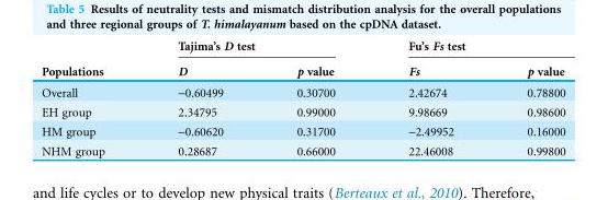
<table><thead><tr><td rowspan="2">Populations</td><td colspan="2">Tajima’s D test</td><td colspan="2">Fu’s Fs test</td></tr><tr><td>D</td><td>p value</td><td>Fs</td><td>p value</td></tr></thead><tbody><tr><td>Overall</td><td>-0.60499</td><td>0.30700</td><td>2.42674</td><td>0.78800</td></tr><tr><td>EH group</td><td>2.34795</td><td>0.99000</td><td>9.98669</td><td>0.98600</td></tr><tr><td>HM group</td><td>-0.60620</td><td>0.31700</td><td>-2.49952</td><td>0.16000</td></tr><tr><td>NHM group</td><td>0.28687</td><td>0.66000</td><td>22.46008</td><td>0.99800</td></tr></tbody></table>